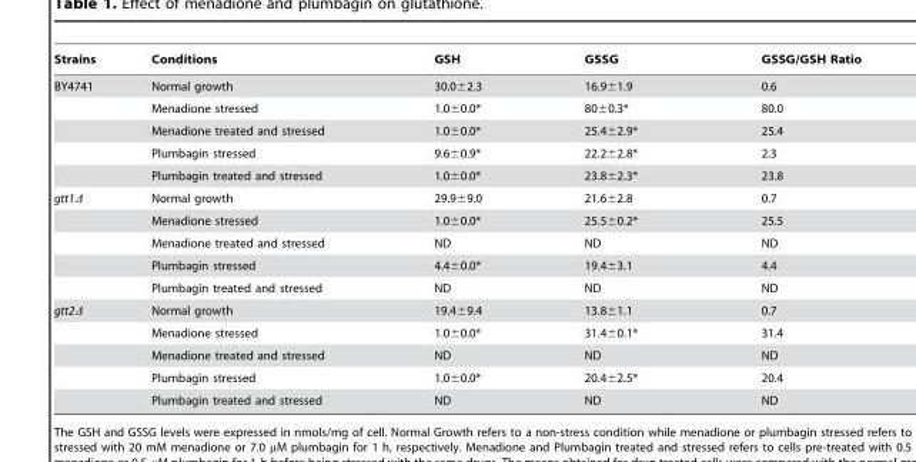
<table><thead><tr><td>Strains</td><td>Conditions</td><td>GSH</td><td>GSSG</td><td>GSSG/GSH Ratio</td></tr></thead><tbody><tr><td rowspan="5">BY4741</td><td>Normal growth</td><td>30.0±2.3</td><td>16.9±1.9</td><td>0.6</td></tr><tr><td>Menadione stressed</td><td>1.0±0.0*</td><td>80±0.3*</td><td>80.0</td></tr><tr><td>Menadione treated and stressed</td><td>1.0±0.0*</td><td>25.4±2.9*</td><td>25.4</td></tr><tr><td>Plumbagin stressed</td><td>9.6±0.9*</td><td>22.2±2.8*</td><td>2.3</td></tr><tr><td>Plumbagin treated and stressed</td><td>1.0±0.0*</td><td>23.8±2.3*</td><td>23.8</td></tr><tr><td rowspan="5">gtt1Δ</td><td>Normal growth</td><td>29.9±9.0</td><td>21.6±2.8</td><td>0.7</td></tr><tr><td>Menadione stressed</td><td>1.0±0.0*</td><td>25.5±0.2*</td><td>25.5</td></tr><tr><td>Menadione treated and stressed</td><td>ND</td><td>ND</td><td>ND</td></tr><tr><td>Plumbagin stressed</td><td>4.4±0.0*</td><td>19.4±3.1</td><td>4.4</td></tr><tr><td>Plumbagin treated and stressed</td><td>ND</td><td>ND</td><td>ND</td></tr><tr><td rowspan="5">gtt2Δ</td><td>Normal growth</td><td>19.4±9.4</td><td>13.8±1.1</td><td>0.7</td></tr><tr><td>Menadione stressed</td><td>1.0±0.0*</td><td>31.4±0.1*</td><td>31.4</td></tr><tr><td>Menadione treated and stressed</td><td>ND</td><td>ND</td><td>ND</td></tr><tr><td>Plumbagin stressed</td><td>1.0±0.0*</td><td>20.4±2.5*</td><td>20.4</td></tr><tr><td>Plumbagin treated and stressed</td><td>ND</td><td>ND</td><td>ND</td></tr></tbody></table>